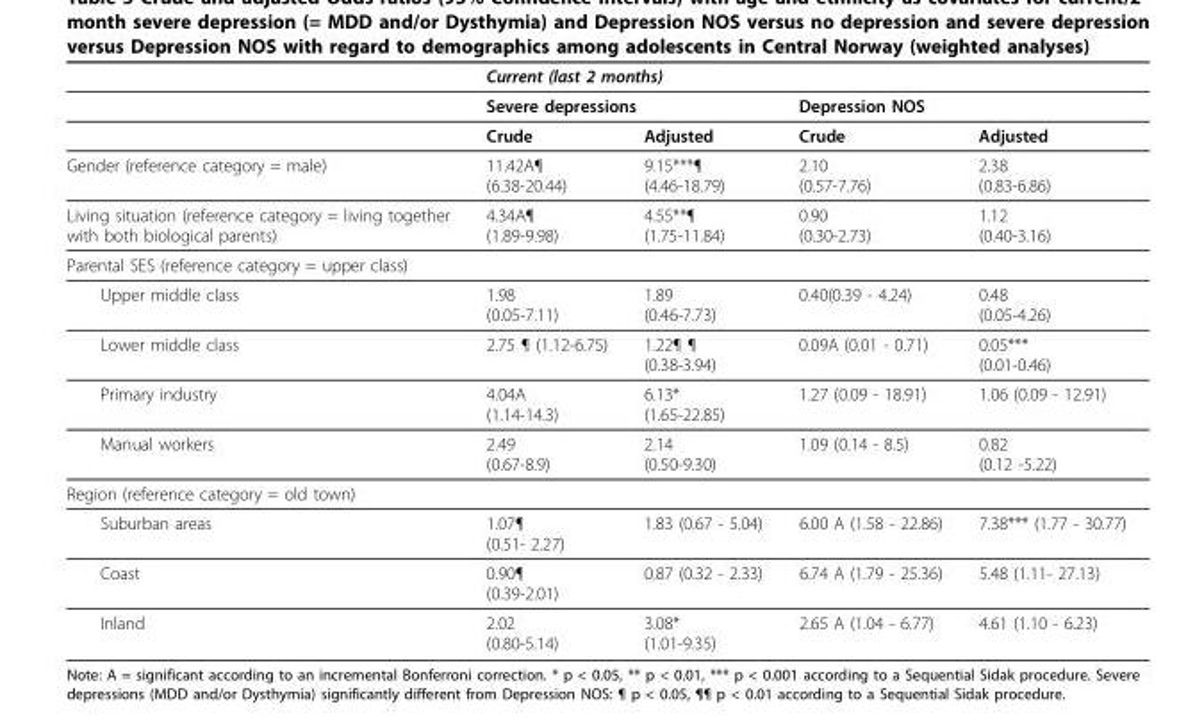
<table><thead><tr><td rowspan="3"></td><td colspan="4">Current (last 2 months)</td></tr><tr><td colspan="2">Severe depressions</td><td colspan="2">Depression NOS</td></tr><tr><td>Crude</td><td>Adjusted</td><td>Crude</td><td>Adjusted</td></tr></thead><tbody><tr><td>Gender (reference category = male)</td><td>11.42A¶ (6.38-20.44)</td><td>9.15***¶ (4.46-18.79)</td><td>2.10 (0.57-7.76)</td><td>2.38 (0.83-6.86)</td></tr><tr><td>Living situation (reference category = living together with both biological parents)</td><td>4.34A¶ (1.89-9.98)</td><td>4.55**¶ (1.75-11.84)</td><td>0.90 (0.30-2.73)</td><td>1.12 (0.40-3.16)</td></tr><tr><td colspan="5">Parental SES (reference category = upper class)</td></tr><tr><td>Upper middle class</td><td>1.98 (0.05-7.11)</td><td>1.89 (0.46-7.73)</td><td>0.40(0.39 - 4.24)</td><td>0.48 (0.05-4.26)</td></tr><tr><td>Lower middle class</td><td>2.75 ¶ (1.12-6.75)</td><td>1.22¶ ¶ (0.38-3.94)</td><td>0.09A (0.01 - 0.71)</td><td>0.05*** (0.01-0.46)</td></tr><tr><td>Primary industry</td><td>4.04A (1.14-14.3)</td><td>6.13* (1.65-22.85)</td><td>1.27 (0.09 - 18.91)</td><td>1.06 (0.09 - 12.91)</td></tr><tr><td>Manual workers</td><td>2.49 (0.67-8.9)</td><td>2.14 (0.50-9.30)</td><td>1.09 (0.14 - 8.5)</td><td>0.82 (0.12 -5.22)</td></tr><tr><td colspan="5">Region (reference category = old town)</td></tr><tr><td>Suburban areas</td><td>1.07¶ (0.51- 2.27)</td><td>1.83 (0.67 - 5.04)</td><td>6.00 A (1.58 - 22.86)</td><td>7.38*** (1.77 - 30.77)</td></tr><tr><td>Coast</td><td>0.90¶ (0.39-2.01)</td><td>0.87 (0.32 - 2.33)</td><td>6.74 A (1.79 - 25.36)</td><td>5.48 (1.11- 27.13)</td></tr><tr><td>Inland</td><td>2.02 (0.80-5.14)</td><td>3.08* (1.01-9.35)</td><td>2.65 A (1.04 - 6.77)</td><td>4.61 (1.10 - 6.23)</td></tr></tbody></table>